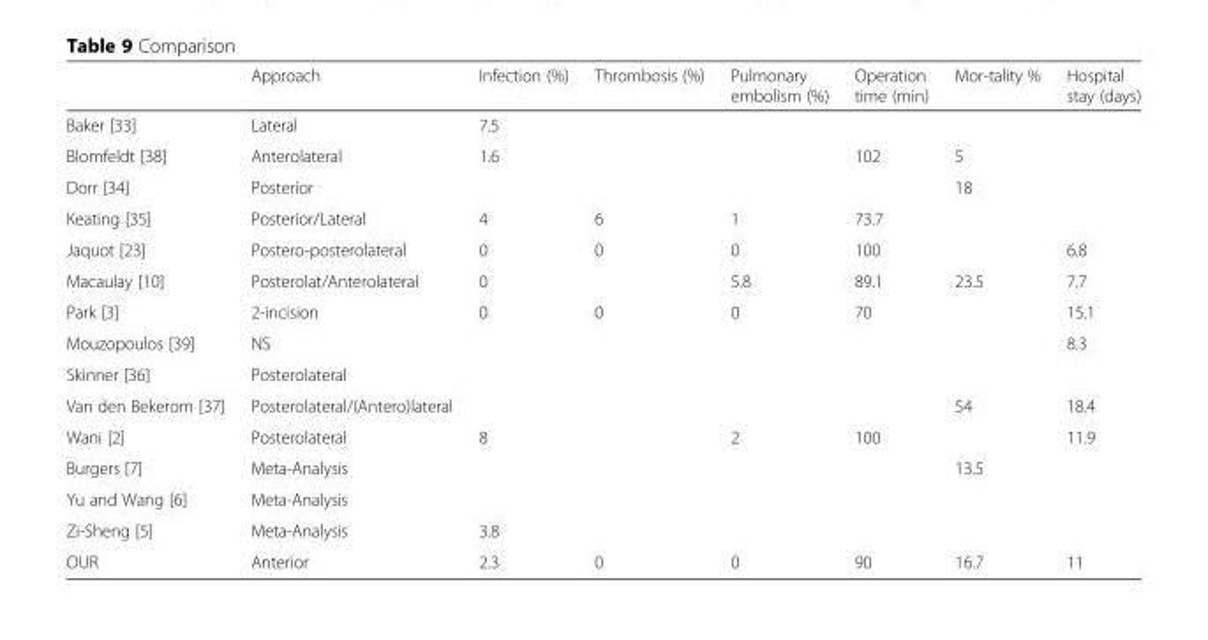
<table><thead><tr><td></td><td>Approach</td><td>Infection (%)</td><td>Thrombosis (%)</td><td>Pulmonary embolism (%)</td><td>Operation time (min)</td><td>Mor-tality %</td><td>Hospital stay (days)</td></tr></thead><tbody><tr><td>Baker [33]</td><td>Lateral</td><td>7.5</td><td></td><td></td><td></td><td></td><td></td></tr><tr><td>Blomfeldt [38]</td><td>Anterolateral</td><td>1.6</td><td></td><td></td><td>102</td><td>5</td><td></td></tr><tr><td>Dorr [34]</td><td>Posterior</td><td></td><td></td><td></td><td></td><td>18</td><td></td></tr><tr><td>Keating [35]</td><td>Posterior/Lateral</td><td>4</td><td>6</td><td>1</td><td>73.7</td><td></td><td></td></tr><tr><td>Jaquot [23]</td><td>Postero-posterolateral</td><td>0</td><td>0</td><td>0</td><td>100</td><td></td><td>6.8</td></tr><tr><td>Macaulay [10]</td><td>Posterolat/Anterolateral</td><td>0</td><td></td><td>5.8</td><td>89.1</td><td>23.5</td><td>7.7</td></tr><tr><td>Park [3]</td><td>2-incision</td><td>0</td><td>0</td><td>0</td><td>70</td><td></td><td>15.1</td></tr><tr><td>Mouzopoulos [39]</td><td>NS</td><td></td><td></td><td></td><td></td><td></td><td>8.3</td></tr><tr><td>Skinner [36]</td><td>Posterolateral</td><td></td><td></td><td></td><td></td><td></td><td></td></tr><tr><td>Van den Bekerom [37]</td><td>Posterolateral/(Antero)lateral</td><td></td><td></td><td></td><td></td><td>54</td><td>18.4</td></tr><tr><td>Wani [2]</td><td>Posterolateral</td><td>8</td><td></td><td>2</td><td>100</td><td></td><td>11.9</td></tr><tr><td>Burgers [7]</td><td>Meta-Analysis</td><td></td><td></td><td></td><td></td><td>13.5</td><td></td></tr><tr><td>Yu and Wang [6]</td><td>Meta-Analysis</td><td></td><td></td><td></td><td></td><td></td><td></td></tr><tr><td>Zi-Sheng [5]</td><td>Meta-Analysis</td><td>3.8</td><td></td><td></td><td></td><td></td><td></td></tr><tr><td>OUR</td><td>Anterior</td><td>2.3</td><td>0</td><td>0</td><td>90</td><td>16.7</td><td>11</td></tr></tbody></table>